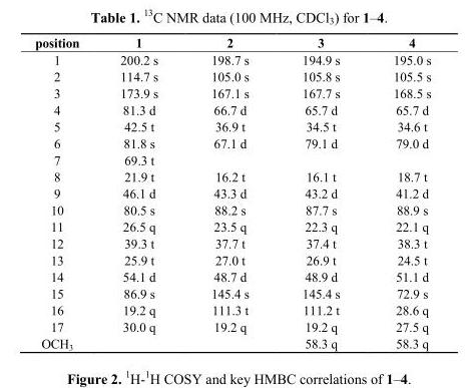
<table><thead><tr><td>position</td><td>1</td><td>2</td><td>3</td><td>4</td></tr></thead><tbody><tr><td>1</td><td>200.2 s</td><td>198.7 s</td><td>194.9 s</td><td>195.0 s</td></tr><tr><td>2</td><td>114.7 s</td><td>105.0 s</td><td>105.8 s</td><td>105.5 s</td></tr><tr><td>3</td><td>173.9 s</td><td>167.1 s</td><td>167.7 s</td><td>168.5 s</td></tr><tr><td>4</td><td>81.3 d</td><td>66.7 d</td><td>65.7 d</td><td>65.7 d</td></tr><tr><td>5</td><td>42.5 t</td><td>36.9 t</td><td>34.5 t</td><td>34.6 t</td></tr><tr><td>6</td><td>81.8 s</td><td>67.1 d</td><td>79.1 d</td><td>79.0 d</td></tr><tr><td>7</td><td>69.3 t</td><td></td><td></td><td></td></tr><tr><td>8</td><td>21.9 t</td><td>16.2 t</td><td>16.1 t</td><td>18.7 t</td></tr><tr><td>9</td><td>46.1 d</td><td>43.3 d</td><td>43.2 d</td><td>41.2 d</td></tr><tr><td>10</td><td>80.5 s</td><td>88.2 s</td><td>87.7 s</td><td>88.9 s</td></tr><tr><td>11</td><td>26.5 q</td><td>23.5 q</td><td>22.3 q</td><td>22.1 q</td></tr><tr><td>12</td><td>39.3 t</td><td>37.7 t</td><td>37.4 t</td><td>38.3 t</td></tr><tr><td>13</td><td>25.9 t</td><td>27.0 t</td><td>26.9 t</td><td>24.5 t</td></tr><tr><td>14</td><td>54.1 d</td><td>48.7 d</td><td>48.9 d</td><td>51.1 d</td></tr><tr><td>15</td><td>86.9 s</td><td>145.4 s</td><td>145.4 s</td><td>72.9 s</td></tr><tr><td>16</td><td>19.2 q</td><td>111.3 t</td><td>111.2 t</td><td>28.6 q</td></tr><tr><td>17</td><td>30.0 q</td><td>19.2 q</td><td>19.2 q</td><td>27.5 q</td></tr><tr><td>OCH<sub>3</sub></td><td></td><td></td><td>58.3 q</td><td>58.3 q</td></tr></tbody></table>